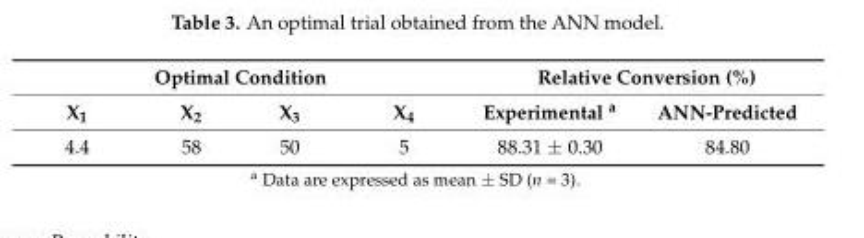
<table><thead><tr><td colspan="4">Optimal Condition</td><td colspan="2">Relative Conversion (%)</td></tr><tr><td>X<sub>1</sub></td><td>X<sub>2</sub></td><td>X<sub>3</sub></td><td>X<sub>4</sub></td><td>Experimental <sup>a</sup></td><td>ANN-Predicted</td></tr></thead><tbody><tr><td>4.4</td><td>58</td><td>50</td><td>5</td><td>88.31 ± 0.30</td><td>84.80</td></tr></tbody></table>